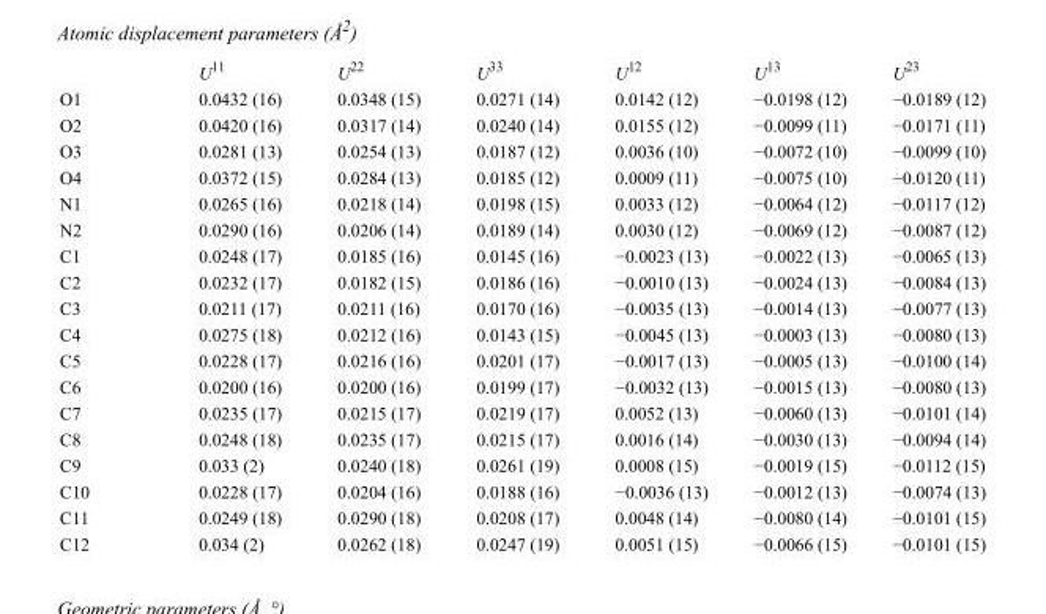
<table><thead><tr><td></td><td>U<sup>11</sup></td><td>U<sup>22</sup></td><td>U<sup>33</sup></td><td>U<sup>12</sup></td><td>U<sup>13</sup></td><td>U<sup>23</sup></td></tr></thead><tbody><tr><td>O1</td><td>0.0432 (16)</td><td>0.0348 (15)</td><td>0.0271 (14)</td><td>0.0142 (12)</td><td>−0.0198 (12)</td><td>−0.0189 (12)</td></tr><tr><td>O2</td><td>0.0420 (16)</td><td>0.0317 (14)</td><td>0.0240 (14)</td><td>0.0155 (12)</td><td>−0.0099 (11)</td><td>−0.0171 (11)</td></tr><tr><td>O3</td><td>0.0281 (13)</td><td>0.0254 (13)</td><td>0.0187 (12)</td><td>0.0036 (10)</td><td>−0.0072 (10)</td><td>−0.0099 (10)</td></tr><tr><td>O4</td><td>0.0372 (15)</td><td>0.0284 (13)</td><td>0.0185 (12)</td><td>0.0009 (11)</td><td>−0.0075 (10)</td><td>−0.0120 (11)</td></tr><tr><td>N1</td><td>0.0265 (16)</td><td>0.0218 (14)</td><td>0.0198 (15)</td><td>0.0033 (12)</td><td>−0.0064 (12)</td><td>−0.0117 (12)</td></tr><tr><td>N2</td><td>0.0290 (16)</td><td>0.0206 (14)</td><td>0.0189 (14)</td><td>0.0030 (12)</td><td>−0.0069 (12)</td><td>−0.0087 (12)</td></tr><tr><td>C1</td><td>0.0248 (17)</td><td>0.0185 (16)</td><td>0.0145 (16)</td><td>−0.0023 (13)</td><td>−0.0022 (13)</td><td>−0.0065 (13)</td></tr><tr><td>C2</td><td>0.0232 (17)</td><td>0.0182 (15)</td><td>0.0186 (16)</td><td>−0.0010 (13)</td><td>−0.0024 (13)</td><td>−0.0084 (13)</td></tr><tr><td>C3</td><td>0.0211 (17)</td><td>0.0211 (16)</td><td>0.0170 (16)</td><td>−0.0035 (13)</td><td>−0.0014 (13)</td><td>−0.0077 (13)</td></tr><tr><td>C4</td><td>0.0275 (18)</td><td>0.0212 (16)</td><td>0.0143 (15)</td><td>−0.0045 (13)</td><td>−0.0003 (13)</td><td>−0.0080 (13)</td></tr><tr><td>C5</td><td>0.0228 (17)</td><td>0.0216 (16)</td><td>0.0201 (17)</td><td>−0.0017 (13)</td><td>−0.0005 (13)</td><td>−0.0100 (14)</td></tr><tr><td>C6</td><td>0.0200 (16)</td><td>0.0200 (16)</td><td>0.0199 (17)</td><td>−0.0032 (13)</td><td>−0.0015 (13)</td><td>−0.0080 (13)</td></tr><tr><td>C7</td><td>0.0235 (17)</td><td>0.0215 (17)</td><td>0.0219 (17)</td><td>0.0052 (13)</td><td>−0.0060 (13)</td><td>−0.0101 (14)</td></tr><tr><td>C8</td><td>0.0248 (18)</td><td>0.0235 (17)</td><td>0.0215 (17)</td><td>0.0016 (14)</td><td>−0.0030 (13)</td><td>−0.0094 (14)</td></tr><tr><td>C9</td><td>0.033 (2)</td><td>0.0240 (18)</td><td>0.0261 (19)</td><td>0.0008 (15)</td><td>−0.0019 (15)</td><td>−0.0112 (15)</td></tr><tr><td>C10</td><td>0.0228 (17)</td><td>0.0204 (16)</td><td>0.0188 (16)</td><td>−0.0036 (13)</td><td>−0.0012 (13)</td><td>−0.0074 (13)</td></tr><tr><td>C11</td><td>0.0249 (18)</td><td>0.0290 (18)</td><td>0.0208 (17)</td><td>0.0048 (14)</td><td>−0.0080 (14)</td><td>−0.0101 (15)</td></tr><tr><td>C12</td><td>0.034 (2)</td><td>0.0262 (18)</td><td>0.0247 (19)</td><td>0.0051 (15)</td><td>−0.0066 (15)</td><td>−0.0101 (15)</td></tr></tbody></table>